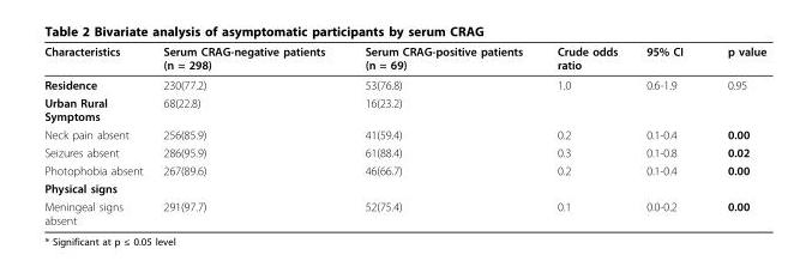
<table><thead><tr><td>Characteristics</td><td>Serum CRAG-negative patients (n = 298)</td><td>Serum CRAG-positive patients (n = 69)</td><td>Crude odds ratio</td><td>95% CI</td><td>p value</td></tr></thead><tbody><tr><td>Residence</td><td>230(77.2)</td><td>53(76.8)</td><td>1.0</td><td>0.6-1.9</td><td>0.95</td></tr><tr><td>Urban Rural Symptoms</td><td>68(22.8)</td><td>16(23.2)</td><td></td><td></td><td></td></tr><tr><td>Neck pain absent</td><td>256(85.9)</td><td>41(59.4)</td><td>0.2</td><td>0.1-0.4</td><td>0.00</td></tr><tr><td>Seizures absent</td><td>286(95.9)</td><td>61(88.4)</td><td>0.3</td><td>0.1-0.8</td><td>0.02</td></tr><tr><td>Photophobia absent</td><td>267(89.6)</td><td>46(66.7)</td><td>0.2</td><td>0.1-0.4</td><td>0.00</td></tr><tr><td colspan="6">Physical signs</td></tr><tr><td>Meningeal signs absent</td><td>291(97.7)</td><td>52(75.4)</td><td>0.1</td><td>0.0-0.2</td><td>0.00</td></tr></tbody></table>